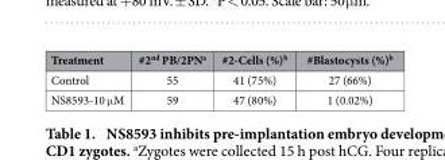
<table><thead><tr><td>Treatment</td><td>#2<sup>nd</sup> PB/2PN<sup>a</sup></td><td>#2-Cells (%)<sup>b</sup></td><td>#Blastocysts (%)<sup>b</sup></td></tr></thead><tbody><tr><td>Control</td><td>55</td><td>41 (75%)</td><td>27 (66%)</td></tr><tr><td>NS8593-10 μ M</td><td>59</td><td>47 (80%)</td><td>1 (0.02%)</td></tr></tbody></table>